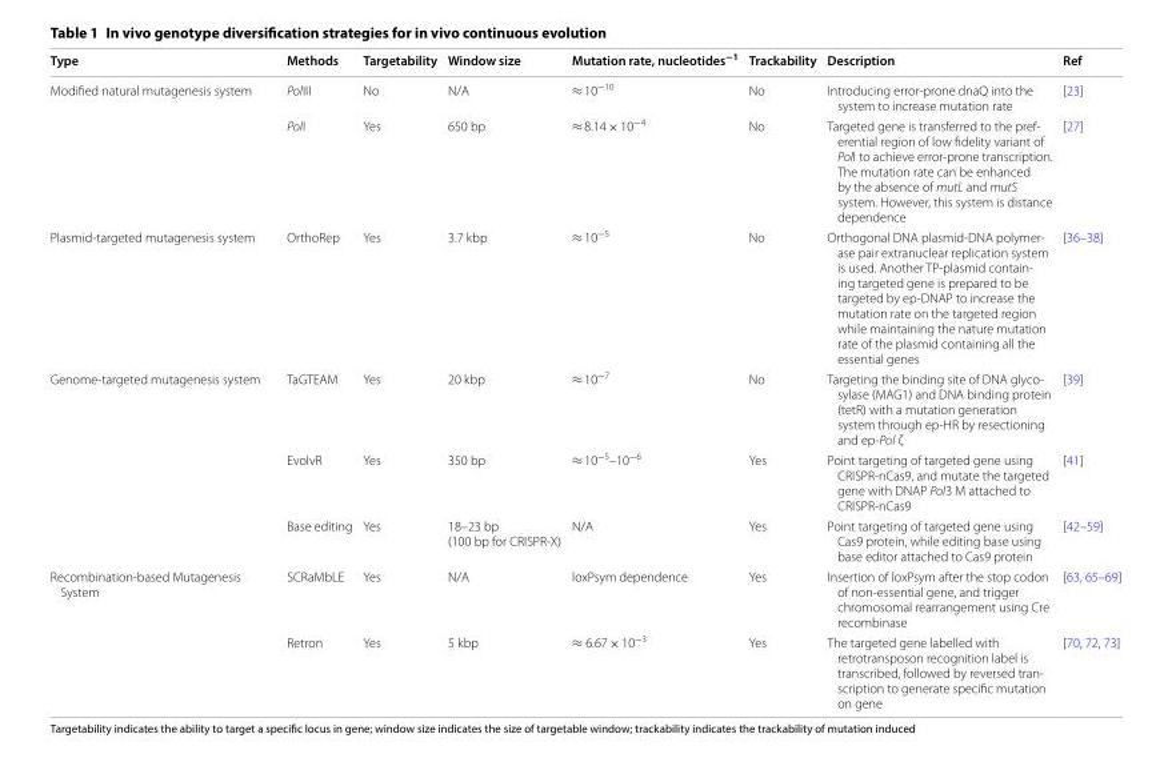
<table><thead><tr><td>Type</td><td>Methods</td><td>Targetability</td><td>Window size</td><td>Mutation rate, nucleotides<sup>−1</sup></td><td>Trackability</td><td>Description</td><td>Ref</td></tr></thead><tbody><tr><td rowspan="2">Modified natural mutagenesis system</td><td>PolIII</td><td>No</td><td>N/A</td><td>≈ 10<sup>−10</sup></td><td>No</td><td>Introducing error-prone dnaQ into the system to increase mutation rate</td><td>[23]</td></tr><tr><td>PolI</td><td>Yes</td><td>650 bp</td><td>≈ 8.14 × 10<sup>−4</sup></td><td>No</td><td>Targeted gene is transferred to the pref- erential region of low fidelity variant of PolI to achieve error-prone transcription. The mutation rate can be enhanced by the absence of mutL and mutS system. However, this system is distance dependence</td><td>[27]</td></tr><tr><td>Plasmid-targeted mutagenesis system</td><td>OrthoRep</td><td>Yes</td><td>3.7 kbp</td><td>≈ 10<sup>−5</sup></td><td>No</td><td>Orthogonal DNA plasmid-DNA polymer- ase pair extranuclear replication system is used. Another TP-plasmid contain- ing targeted gene is prepared to be targeted by ep-DNAP to increase the mutation rate on the targeted region while maintaining the nature mutation rate of the plasmid containing all the essential genes</td><td>[36–38]</td></tr><tr><td rowspan="3">Genome-targeted mutagenesis system</td><td>TaGTEAM</td><td>Yes</td><td>20 kbp</td><td>≈ 10<sup>−7</sup></td><td>No</td><td>Targeting the binding site of DNA glyco- sylase (MAG1) and DNA binding protein (tetR) with a mutation generation system through ep-HR by resectioning and ep-Pol ζ</td><td>[39]</td></tr><tr><td>EvolvR</td><td>Yes</td><td>350 bp</td><td>≈ 10<sup>−5</sup>–10<sup>−6</sup></td><td>Yes</td><td>Point targeting of targeted gene using CRISPR-nCas9, and mutate the targeted gene with DNAP Pol3 M attached to CRISPR-nCas9</td><td>[41]</td></tr><tr><td>Base editing</td><td>Yes</td><td>18–23 bp (100 bp for CRISPR-X)</td><td>N/A</td><td>Yes</td><td>Point targeting of targeted gene using Cas9 protein, while editing base using base editor attached to Cas9 protein</td><td>[42–59]</td></tr><tr><td rowspan="2">Recombination-based Mutagenesis System</td><td>SCRaMbLE</td><td>Yes</td><td>N/A</td><td>loxPsym dependence</td><td>Yes</td><td>Insertion of loxPsym after the stop codon of non-essential gene, and trigger chromosomal rearrangement using Cre recombinase</td><td>[63, 65–69]</td></tr><tr><td>Retron</td><td>Yes</td><td>5 kbp</td><td>≈ 6.67 × 10<sup>−3</sup></td><td>Yes</td><td>The targeted gene labelled with retrotransposon recognition label is transcribed, followed by reversed tran- scription to generate specific mutation on gene</td><td>[70, 72, 73]</td></tr></tbody></table>